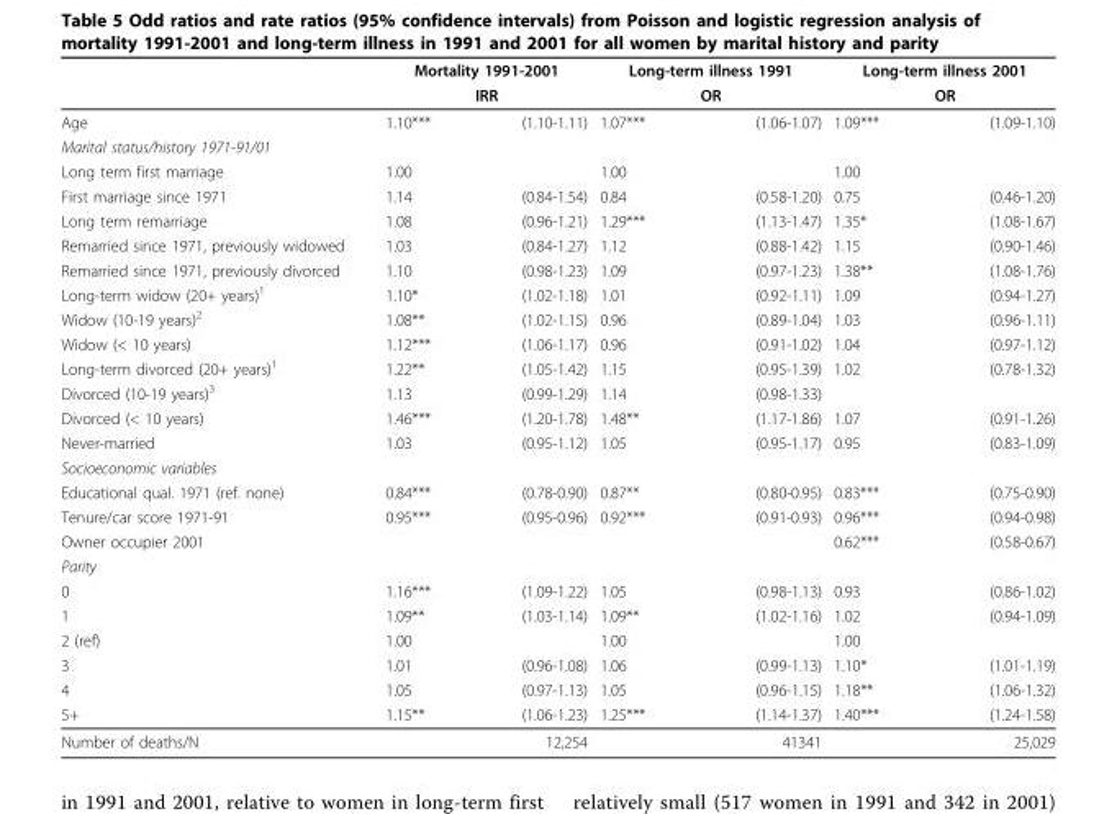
<table><thead><tr><td rowspan="3">Age</td><td rowspan="2" colspan="2">Mortality 1991-2001 IRR</td><td rowspan="2" colspan="2">Long-term illness 1991 OR</td><td rowspan="2" colspan="2">Long-term illness 2001 OR</td></tr><tr></tr><tr><td>1.10***</td><td>(1.10-1.11)</td><td>1.07***</td><td>(1.06-1.07)</td><td>1.09***</td><td>(1.09-1.10)</td></tr></thead><tbody><tr><td colspan="7">Marital status/history 1971-91/01</td></tr><tr><td>Long term first marriage</td><td>1.00</td><td></td><td>1.00</td><td></td><td>1.00</td><td></td></tr><tr><td>First marriage since 1971</td><td>1.14</td><td>(0.84-1.54)</td><td>0.84</td><td>(0.58-1.20)</td><td>0.75</td><td>(0.46-1.20)</td></tr><tr><td>Long term remarriage</td><td>1.08</td><td>(0.96-1.21)</td><td>1.29***</td><td>(1.13-1.47)</td><td>1.35*</td><td>(1.08-1.67)</td></tr><tr><td>Remarried since 1971, previously widowed</td><td>1.03</td><td>(0.84-1.27)</td><td>1.12</td><td>(0.88-1.42)</td><td>1.15</td><td>(0.90-1.46)</td></tr><tr><td>Remarried since 1971, previously divorced</td><td>1.10</td><td>(0.98-1.23)</td><td>1.09</td><td>(0.97-1.23)</td><td>1.38**</td><td>(1.08-1.76)</td></tr><tr><td>Long-term widow (20+ years)<sup>1</sup></td><td>1.10*</td><td>(1.02-1.18)</td><td>1.01</td><td>(0.92-1.11)</td><td>1.09</td><td>(0.94-1.27)</td></tr><tr><td>Widow (10-19 years)<sup>2</sup></td><td>1.08**</td><td>(1.02-1.15)</td><td>0.96</td><td>(0.89-1.04)</td><td>1.03</td><td>(0.96-1.11)</td></tr><tr><td>Widow (&lt; 10 years)</td><td>1.12***</td><td>(1.06-1.17)</td><td>0.96</td><td>(0.91-1.02)</td><td>1.04</td><td>(0.97-1.12)</td></tr><tr><td>Long-term divorced (20+ years)<sup>1</sup></td><td>1.22**</td><td>(1.05-1.42)</td><td>1.15</td><td>(0.95-1.39)</td><td>1.02</td><td>(0.78-1.32)</td></tr><tr><td>Divorced (10-19 years)<sup>3</sup></td><td>1.13</td><td>(0.99-1.29)</td><td>1.14</td><td>(0.98-1.33)</td><td></td><td></td></tr><tr><td>Divorced (&lt; 10 years)</td><td>1.46***</td><td>(1.20-1.78)</td><td>1.48**</td><td>(1.17-1.86)</td><td>1.07</td><td>(0.91-1.26)</td></tr><tr><td>Never-married</td><td>1.03</td><td>(0.95-1.12)</td><td>1.05</td><td>(0.95-1.17)</td><td>0.95</td><td>(0.83-1.09)</td></tr><tr><td colspan="7">Socioeconomic variables</td></tr><tr><td>Educational qual. 1971 (ref. none)</td><td>0.84***</td><td>(0.78-0.90)</td><td>0.87**</td><td>(0.80-0.95)</td><td>0.83***</td><td>(0.75-0.90)</td></tr><tr><td>Tenure/car score 1971-91</td><td>0.95***</td><td>(0.95-0.96)</td><td>0.92***</td><td>(0.91-0.93)</td><td>0.96***</td><td>(0.94-0.98)</td></tr><tr><td>Owner occupier 2001</td><td></td><td></td><td></td><td></td><td>0.62***</td><td>(0.58-0.67)</td></tr><tr><td colspan="7">Parity</td></tr><tr><td>0</td><td>1.16***</td><td>(1.09-1.22)</td><td>1.05</td><td>(0.98-1.13)</td><td>0.93</td><td>(0.86-1.02)</td></tr><tr><td>1</td><td>1.09**</td><td>(1.03-1.14)</td><td>1.09**</td><td>(1.02-1.16)</td><td>1.02</td><td>(0.94-1.09)</td></tr><tr><td>2 (ref)</td><td>1.00</td><td></td><td>1.00</td><td></td><td>1.00</td><td></td></tr><tr><td>3</td><td>1.01</td><td>(0.96-1.08)</td><td>1.06</td><td>(0.99-1.13)</td><td>1.10*</td><td>(1.01-1.19)</td></tr><tr><td>4</td><td>1.05</td><td>(0.97-1.13)</td><td>1.05</td><td>(0.96-1.15)</td><td>1.18**</td><td>(1.06-1.32)</td></tr><tr><td>5+</td><td>1.15**</td><td>(1.06-1.23)</td><td>1.25***</td><td>(1.14-1.37)</td><td>1.40***</td><td>(1.24-1.58)</td></tr><tr><td>Number of deaths/N</td><td colspan="2">12,254</td><td colspan="2">41341</td><td colspan="2">25,029</td></tr></tbody></table>